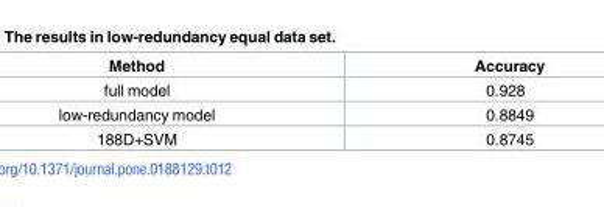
<table><thead><tr><td>Method</td><td>Accuracy</td></tr></thead><tbody><tr><td>full model</td><td>0.928</td></tr><tr><td>low-redundancy model</td><td>0.8849</td></tr><tr><td>188D+SVM</td><td>0.8745</td></tr></tbody></table>